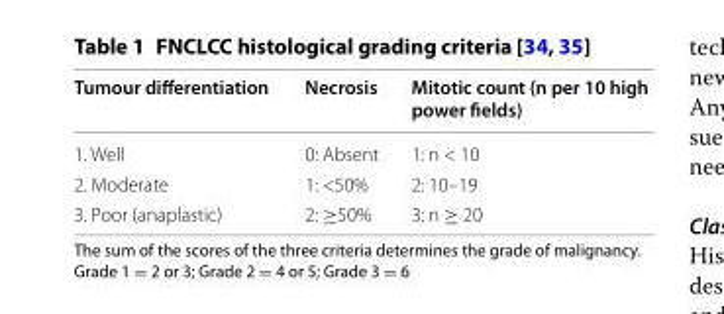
<table><thead><tr><td>Tumour differentiation</td><td>Necrosis</td><td>Mitotic count (n per 10 high power fields)</td></tr></thead><tbody><tr><td>1. Well</td><td>0: Absent</td><td>1: n &lt; 10</td></tr><tr><td>2. Moderate</td><td>1: &lt;50%</td><td>2: 10–19</td></tr><tr><td>3. Poor (anaplastic)</td><td>2: ≥50%</td><td>3: n ≥ 20</td></tr></tbody></table>